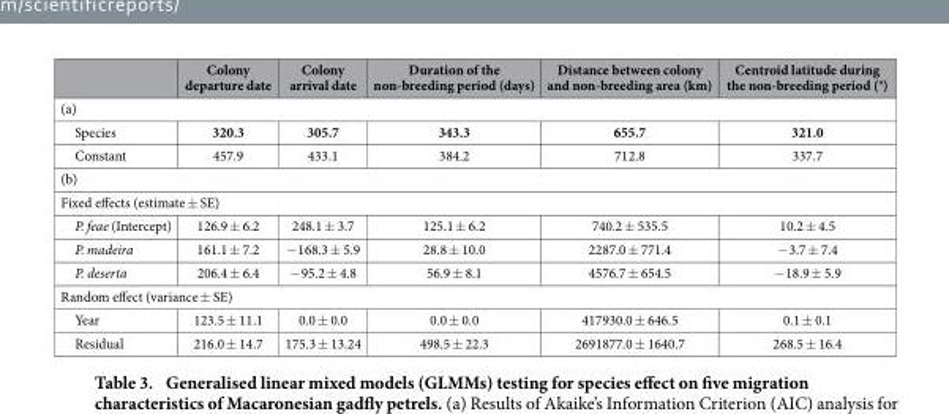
<table><thead><tr><td></td><td>Colony departure date</td><td>Colony arrival date</td><td>Duration of the non-breeding period (days)</td><td>Distance between colony and non-breeding area (km)</td><td>Centroid latitude during the non-breeding period (°)</td></tr></thead><tbody><tr><td colspan="6">(a)</td></tr><tr><td>Species</td><td>320.3</td><td>305.7</td><td>343.3</td><td>655.7</td><td>321.0</td></tr><tr><td>Constant</td><td>457.9</td><td>433.1</td><td>384.2</td><td>712.8</td><td>337.7</td></tr><tr><td colspan="6">(b)</td></tr><tr><td colspan="6">Fixed effects (estimate ± SE)</td></tr><tr><td>P. feae (Intercept)</td><td>126.9 ± 6.2</td><td>248.1 ± 3.7</td><td>125.1 ± 6.2</td><td>740.2 ± 535.5</td><td>10.2 ± 4.5</td></tr><tr><td>P. madeira</td><td>161.1 ± 7.2</td><td>− 168.3 ± 5.9</td><td>28.8 ± 10.0</td><td>2287.0 ± 771.4</td><td>− 3.7 ± 7.4</td></tr><tr><td>P. deserta</td><td>206.4 ± 6.4</td><td>− 95.2 ± 4.8</td><td>56.9 ± 8.1</td><td>4576.7 ± 654.5</td><td>− 18.9 ± 5.9</td></tr><tr><td colspan="6">Random effect (variance ± SE)</td></tr><tr><td>Year</td><td>123.5 ± 11.1</td><td>0.0 ± 0.0</td><td>0.0 ± 0.0</td><td>417930.0 ± 646.5</td><td>0.1 ± 0.1</td></tr><tr><td>Residual</td><td>216.0 ± 14.7</td><td>175.3 ± 13.24</td><td>498.5 ± 22.3</td><td>2691877.0 ± 1640.7</td><td>268.5 ± 16.4</td></tr></tbody></table>